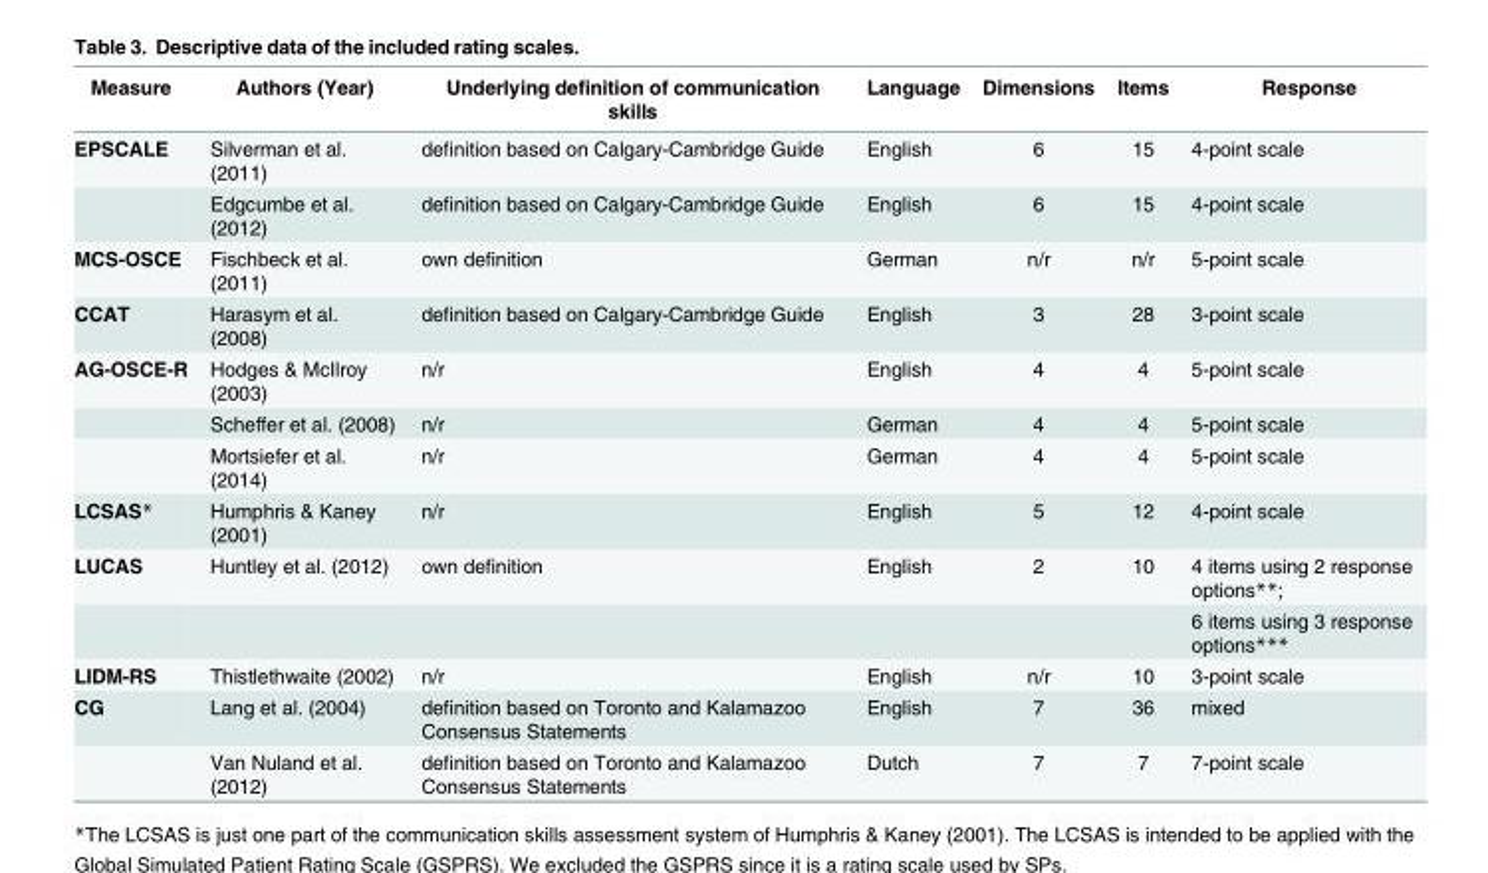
<table><thead><tr><td>Measure</td><td>Authors (Year)</td><td>Underlying definition of communication skills</td><td>Language</td><td>Dimensions</td><td>Items</td><td>Response</td></tr></thead><tbody><tr><td rowspan="2">EPSCALE</td><td>Silverman et al. (2011)</td><td>definition based on Calgary-Cambridge Guide</td><td>English</td><td>6</td><td>15</td><td>4-point scale</td></tr><tr><td>Edgcumbe et al. (2012)</td><td>definition based on Calgary-Cambridge Guide</td><td>English</td><td>6</td><td>15</td><td>4-point scale</td></tr><tr><td>MCS-OSCE</td><td>Fischbeck et al. (2011)</td><td>own definition</td><td>German</td><td>n/r</td><td>n/r</td><td>5-point scale</td></tr><tr><td>CCAT</td><td>Harasym et al. (2008)</td><td>definition based on Calgary-Cambridge Guide</td><td>English</td><td>3</td><td>28</td><td>3-point scale</td></tr><tr><td rowspan="3">AG-OSCE-R</td><td>Hodges &amp; McIlroy (2003)</td><td>n/r</td><td>English</td><td>4</td><td>4</td><td>5-point scale</td></tr><tr><td>Scheffer et al. (2008)</td><td>n/r</td><td>German</td><td>4</td><td>4</td><td>5-point scale</td></tr><tr><td>Mortsiefer et al. (2014)</td><td>n/r</td><td>German</td><td>4</td><td>4</td><td>5-point scale</td></tr><tr><td>LCSAS*</td><td>Humphris &amp; Kaney (2001)</td><td>n/r</td><td>English</td><td>5</td><td>12</td><td>4-point scale</td></tr><tr><td rowspan="2">LUCAS</td><td>Huntley et al. (2012)</td><td>own definition</td><td>English</td><td>2</td><td>10</td><td>4 items using 2 response options**;</td></tr><tr><td></td><td></td><td></td><td></td><td></td><td>6 items using 3 response options***</td></tr><tr><td>LIDM-RS</td><td>Thistlethwaite (2002)</td><td>n/r</td><td>English</td><td>n/r</td><td>10</td><td>3-point scale</td></tr><tr><td rowspan="2">CG</td><td>Lang et al. (2004)</td><td>definition based on Toronto and Kalamazoo Consensus Statements</td><td>English</td><td>7</td><td>36</td><td>mixed</td></tr><tr><td>Van Nuland et al. (2012)</td><td>definition based on Toronto and Kalamazoo Consensus Statements</td><td>Dutch</td><td>7</td><td>7</td><td>7-point scale</td></tr></tbody></table>